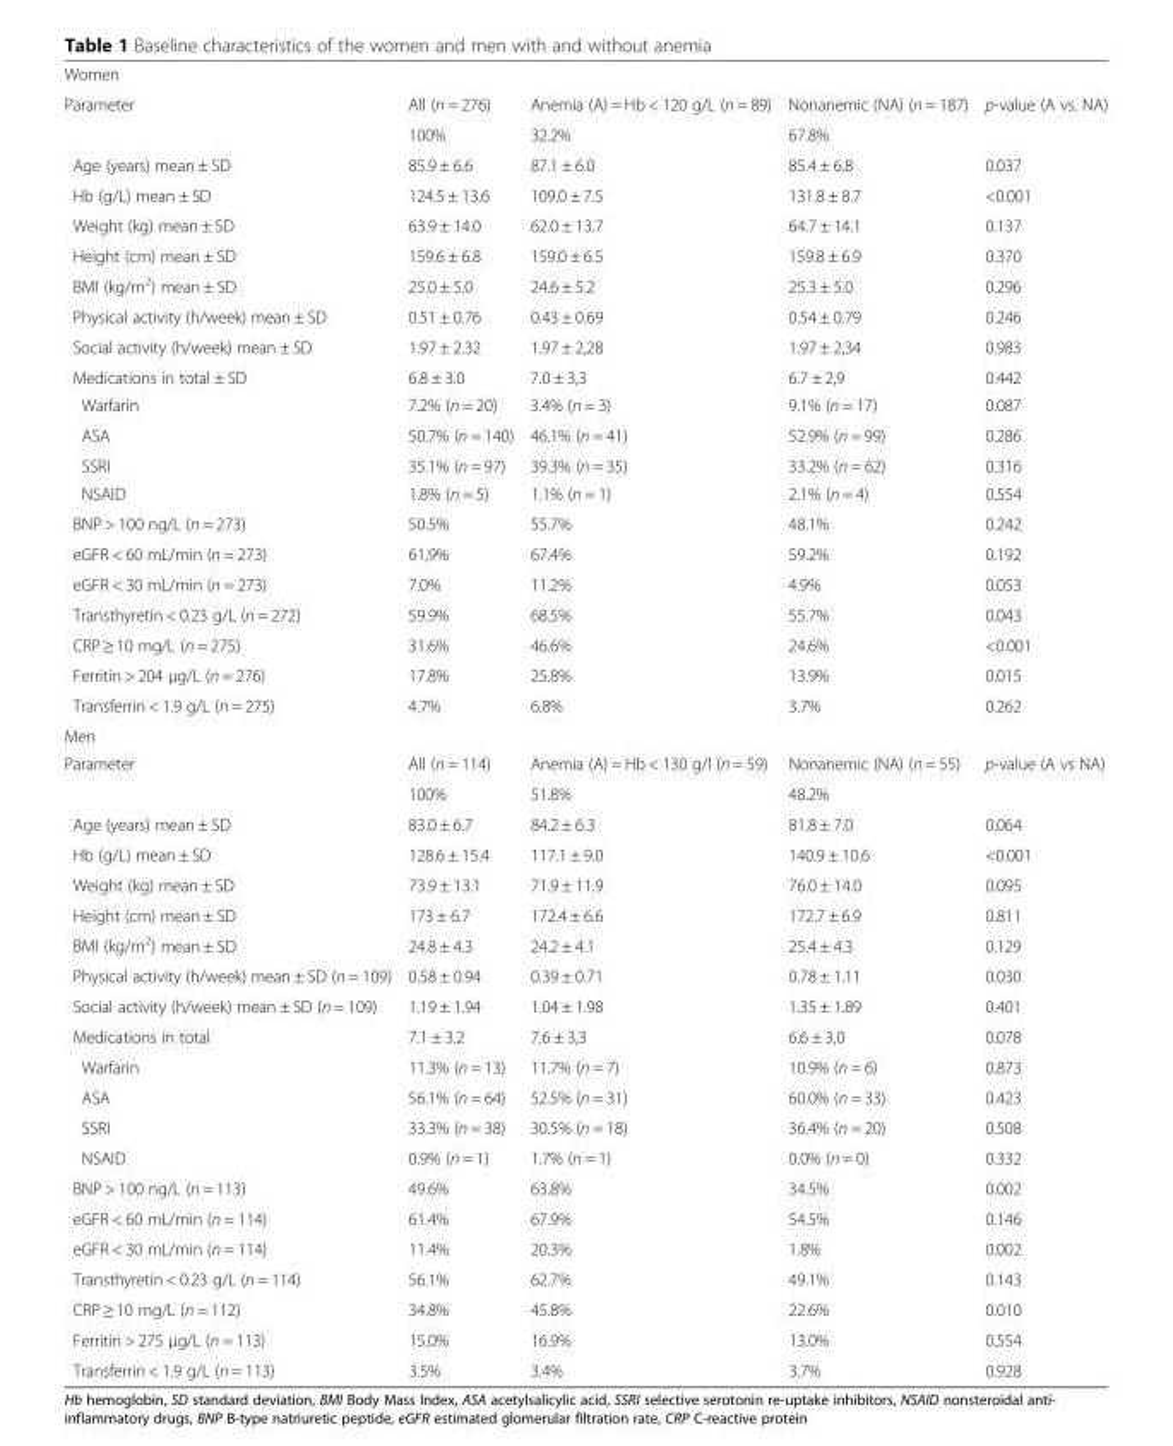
<table><tbody><tr><td colspan="5">Women</td></tr><tr><td rowspan="2">Parameter</td><td>All (n = 276)</td><td>Anemia (A) = Hb &lt; 120 g/L (n = 89)</td><td>Nonanemic (NA) (n = 187)</td><td>p-value (A vs. NA)</td></tr><tr><td>100%</td><td>32.2%</td><td>67.8%</td><td></td></tr><tr><td>Age (years) mean ± SD</td><td>85.9 ± 6.6</td><td>87.1 ± 6.0</td><td>85.4 ± 6.8</td><td>0.037</td></tr><tr><td>Hb (g/L) mean ± SD</td><td>124.5 ± 13.6</td><td>109.0 ± 7.5</td><td>131.8 ± 8.7</td><td>&lt;0.001</td></tr><tr><td>Weight (kg) mean ± SD</td><td>63.9 ± 14.0</td><td>62.0 ± 13.7</td><td>64.7 ± 14.1</td><td>0.137</td></tr><tr><td>Height (cm) mean ± SD</td><td>159.6 ± 6.8</td><td>159.0 ± 6.5</td><td>159.8 ± 6.9</td><td>0.370</td></tr><tr><td>BMI (kg/m<sup>2</sup>) mean ± SD</td><td>25.0 ± 5.0</td><td>24.6 ± 5.2</td><td>25.3 ± 5.0</td><td>0.296</td></tr><tr><td>Physical activity (h/week) mean ± SD</td><td>0.51 ± 0.76</td><td>0.43 ± 0.69</td><td>0.54 ± 0.79</td><td>0.246</td></tr><tr><td>Social activity (h/week) mean ± SD</td><td>1.97 ± 2.32</td><td>1.97 ± 2,28</td><td>1.97 ± 2,34</td><td>0.983</td></tr><tr><td>Medications in total ± SD</td><td>6.8 ± 3.0</td><td>7.0 ± 3,3</td><td>6.7 ± 2,9</td><td>0.442</td></tr><tr><td>Warfarin</td><td>7.2% (n = 20)</td><td>3.4% (n = 3)</td><td>9.1% (n = 17)</td><td>0.087</td></tr><tr><td>ASA</td><td>50.7% (n = 140)</td><td>46.1% (n = 41)</td><td>52.9% (n = 99)</td><td>0.286</td></tr><tr><td>SSRI</td><td>35.1% (n = 97)</td><td>39.3% (n = 35)</td><td>33.2% (n = 62)</td><td>0.316</td></tr><tr><td>NSAID</td><td>1.8% (n = 5)</td><td>1.1% (n = 1)</td><td>2.1% (n = 4)</td><td>0.554</td></tr><tr><td>BNP &gt; 100 ng/L (n = 273)</td><td>50.5%</td><td>55.7%</td><td>48.1%</td><td>0.242</td></tr><tr><td>eGFR &lt; 60 mL/min (n = 273)</td><td>61,9%</td><td>67.4%</td><td>59.2%</td><td>0.192</td></tr><tr><td>eGFR &lt; 30 mL/min (n = 273)</td><td>7.0%</td><td>11.2%</td><td>4.9%</td><td>0.053</td></tr><tr><td>Transthyretin &lt; 0.23 g/L (n = 272)</td><td>59.9%</td><td>68.5%</td><td>55.7%</td><td>0.043</td></tr><tr><td>CRP ≥ 10 mg/L (n = 275)</td><td>31.6%</td><td>46.6%</td><td>24.6%</td><td>&lt;0.001</td></tr><tr><td>Ferritin &gt; 204 μg/L (n = 276)</td><td>17.8%</td><td>25.8%</td><td>13.9%</td><td>0.015</td></tr><tr><td>Transferrin &lt; 1.9 g/L (n = 275)</td><td>4.7%</td><td>6.8%</td><td>3.7%</td><td>0.262</td></tr><tr><td colspan="5">Men</td></tr><tr><td rowspan="2">Parameter</td><td>All (n = 114)</td><td>Anemia (A) = Hb &lt; 130 g/l (n = 59)</td><td>Nonanemic (NA) (n = 55)</td><td>p-value (A vs NA)</td></tr><tr><td>100%</td><td>51.8%</td><td>48.2%</td><td></td></tr><tr><td>Age (years) mean ± SD</td><td>83.0 ± 6.7</td><td>84.2 ± 6.3</td><td>81.8 ± 7.0</td><td>0.064</td></tr><tr><td>Hb (g/L) mean ± SD</td><td>128.6 ± 15.4</td><td>117.1 ± 9.0</td><td>140.9 ± 10.6</td><td>&lt;0.001</td></tr><tr><td>Weight (kg) mean ± SD</td><td>73.9 ± 13.1</td><td>71.9 ± 11.9</td><td>76.0 ± 14.0</td><td>0.095</td></tr><tr><td>Height (cm) mean ± SD</td><td>173 ± 6.7</td><td>172.4 ± 6.6</td><td>172.7 ± 6.9</td><td>0.811</td></tr><tr><td>BMI (kg/m<sup>2</sup>) mean ± SD</td><td>24.8 ± 4.3</td><td>24.2 ± 4.1</td><td>25.4 ± 4.3</td><td>0.129</td></tr><tr><td>Physical activity (h/week) mean ± SD (n = 109)</td><td>0.58 ± 0.94</td><td>0.39 ± 0.71</td><td>0.78 ± 1.11</td><td>0.030</td></tr><tr><td>Social activity (h/week) mean ± SD (n = 109)</td><td>1.19 ± 1.94</td><td>1.04 ± 1.98</td><td>1.35 ± 1.89</td><td>0.401</td></tr><tr><td>Medications in total</td><td>7.1 ± 3.2</td><td>7.6 ± 3,3</td><td>6.6 ± 3,0</td><td>0.078</td></tr><tr><td>Warfarin</td><td>11.3% (n = 13)</td><td>11.7% (n = 7)</td><td>10.9% (n = 6)</td><td>0.873</td></tr><tr><td>ASA</td><td>56.1% (n = 64)</td><td>52.5% (n = 31)</td><td>60.0% (n = 33)</td><td>0.423</td></tr><tr><td>SSRI</td><td>33.3% (n = 38)</td><td>30.5% (n = 18)</td><td>36.4% (n = 20)</td><td>0.508</td></tr><tr><td>NSAID</td><td>0.9% (n = 1)</td><td>1.7% (n = 1)</td><td>0.0% (n = 0)</td><td>0.332</td></tr><tr><td>BNP &gt; 100 ng/L (n = 113)</td><td>49.6%</td><td>63.8%</td><td>34.5%</td><td>0.002</td></tr><tr><td>eGFR &lt; 60 mL/min (n = 114)</td><td>61.4%</td><td>67.9%</td><td>54.5%</td><td>0.146</td></tr><tr><td>eGFR &lt; 30 mL/min (n = 114)</td><td>11.4%</td><td>20.3%</td><td>1.8%</td><td>0.002</td></tr><tr><td>Transthyretin &lt; 0.23 g/L (n = 114)</td><td>56.1%</td><td>62.7%</td><td>49.1%</td><td>0.143</td></tr><tr><td>CRP ≥ 10 mg/L (n = 112)</td><td>34.8%</td><td>45.8%</td><td>22.6%</td><td>0.010</td></tr><tr><td>Ferritin &gt; 275 μg/L (n = 113)</td><td>15.0%</td><td>16.9%</td><td>13.0%</td><td>0.554</td></tr><tr><td>Transferrin &lt; 1.9 g/L (n = 113)</td><td>3.5%</td><td>3.4%</td><td>3.7%</td><td>0.928</td></tr></tbody></table>